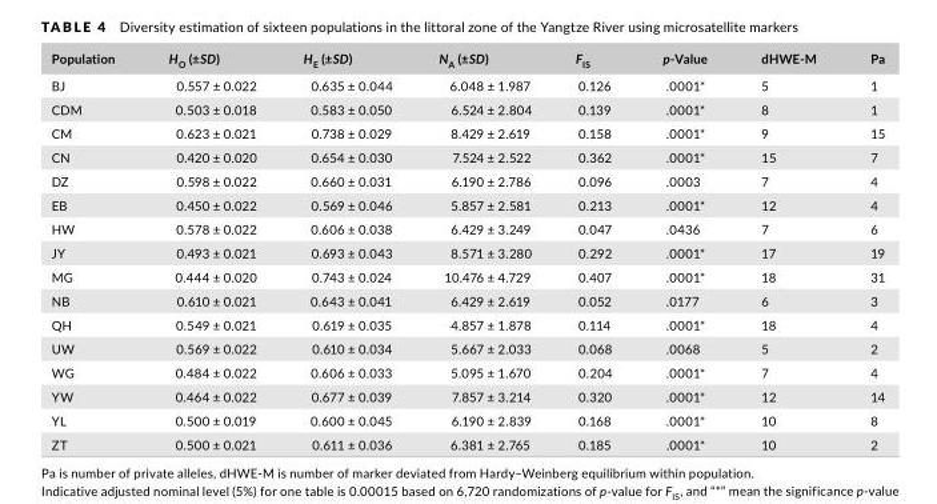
<table><thead><tr><td>Population</td><td>H<sub>O</sub> (±SD)</td><td>H<sub>E</sub> (±SD)</td><td>N<sub>A</sub> (±SD)</td><td>F<sub>IS</sub></td><td>p- Value</td><td>dHWE- M</td><td>Pa</td></tr></thead><tbody><tr><td>BJ</td><td>0.557 ± 0.022</td><td>0.635 ± 0.044</td><td>6.048 ± 1.987</td><td>0.126</td><td>.0001*</td><td>5</td><td>1</td></tr><tr><td>CDM</td><td>0.503 ± 0.018</td><td>0.583 ± 0.050</td><td>6.524 ± 2.804</td><td>0.139</td><td>.0001*</td><td>8</td><td>1</td></tr><tr><td>CM</td><td>0.623 ± 0.021</td><td>0.738 ± 0.029</td><td>8.429 ± 2.619</td><td>0.158</td><td>.0001*</td><td>9</td><td>15</td></tr><tr><td>CN</td><td>0.420 ± 0.020</td><td>0.654 ± 0.030</td><td>7.524 ± 2.522</td><td>0.362</td><td>.0001*</td><td>15</td><td>7</td></tr><tr><td>DZ</td><td>0.598 ± 0.022</td><td>0.660 ± 0.031</td><td>6.190 ± 2.786</td><td>0.096</td><td>.0003</td><td>7</td><td>4</td></tr><tr><td>EB</td><td>0.450 ± 0.022</td><td>0.569 ± 0.046</td><td>5.857 ± 2.581</td><td>0.213</td><td>.0001*</td><td>12</td><td>4</td></tr><tr><td>HW</td><td>0.578 ± 0.022</td><td>0.606 ± 0.038</td><td>6.429 ± 3.249</td><td>0.047</td><td>.0436</td><td>7</td><td>6</td></tr><tr><td>JY</td><td>0.493 ± 0.021</td><td>0.693 ± 0.043</td><td>8.571 ± 3.280</td><td>0.292</td><td>.0001*</td><td>17</td><td>19</td></tr><tr><td>MG</td><td>0.444 ± 0.020</td><td>0.743 ± 0.024</td><td>10.476 ± 4.729</td><td>0.407</td><td>.0001*</td><td>18</td><td>31</td></tr><tr><td>NB</td><td>0.610 ± 0.021</td><td>0.643 ± 0.041</td><td>6.429 ± 2.619</td><td>0.052</td><td>.0177</td><td>6</td><td>3</td></tr><tr><td>QH</td><td>0.549 ± 0.021</td><td>0.619 ± 0.035</td><td>4.857 ± 1.878</td><td>0.114</td><td>.0001*</td><td>18</td><td>4</td></tr><tr><td>UW</td><td>0.569 ± 0.022</td><td>0.610 ± 0.034</td><td>5.667 ± 2.033</td><td>0.068</td><td>.0068</td><td>5</td><td>2</td></tr><tr><td>WG</td><td>0.484 ± 0.022</td><td>0.606 ± 0.033</td><td>5.095 ± 1.670</td><td>0.204</td><td>.0001*</td><td>7</td><td>4</td></tr><tr><td>YW</td><td>0.464 ± 0.022</td><td>0.677 ± 0.039</td><td>7.857 ± 3.214</td><td>0.320</td><td>.0001*</td><td>12</td><td>14</td></tr><tr><td>YL</td><td>0.500 ± 0.019</td><td>0.600 ± 0.045</td><td>6.190 ± 2.839</td><td>0.168</td><td>.0001*</td><td>10</td><td>8</td></tr><tr><td>ZT</td><td>0.500 ± 0.021</td><td>0.611 ± 0.036</td><td>6.381 ± 2.765</td><td>0.185</td><td>.0001*</td><td>10</td><td>2</td></tr></tbody></table>